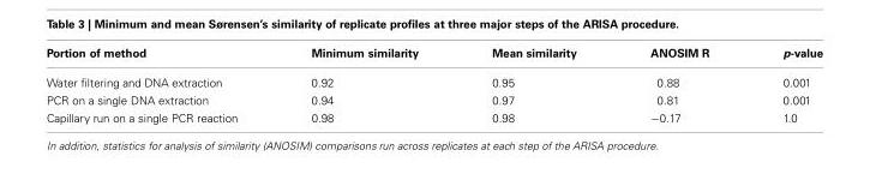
<table><thead><tr><td>Portion of method</td><td>Minimum similarity</td><td>Mean similarity</td><td>ANOSIM R</td><td>p-value</td></tr></thead><tbody><tr><td>Water filtering and DNA extraction</td><td>0.92</td><td>0.95</td><td>0.88</td><td>0.001</td></tr><tr><td>PCR on a single DNA extraction</td><td>0.94</td><td>0.97</td><td>0.81</td><td>0.001</td></tr><tr><td>Capillary run on a single PCR reaction</td><td>0.98</td><td>0.98</td><td>−0.17</td><td>1.0</td></tr></tbody></table>